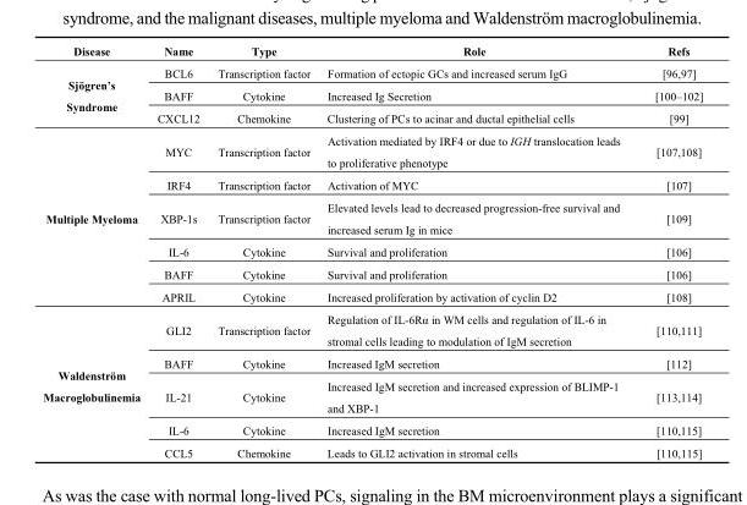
<table><thead><tr><td>Disease</td><td>Name</td><td>Type</td><td>Role</td><td>Refs</td></tr></thead><tbody><tr><td rowspan="3">Sjӧgren’s Syndrome</td><td>BCL6</td><td>Transcription factor</td><td>Formation of ectopic GCs and increased serum IgG</td><td>[96,97]</td></tr><tr><td>BAFF</td><td>Cytokine</td><td>Increased Ig Secretion</td><td>[100–102]</td></tr><tr><td>CXCL12</td><td>Chemokine</td><td>Clustering of PCs to acinar and ductal epithelial cells</td><td>[99]</td></tr><tr><td rowspan="6">Multiple Myeloma</td><td>MYC</td><td>Transcription factor</td><td>Activation mediated by IRF4 or due to IGH translocation leads to proliferative phenotype</td><td>[107,108]</td></tr><tr><td>IRF4</td><td>Transcription factor</td><td>Activation of MYC</td><td>[107]</td></tr><tr><td>XBP-1s</td><td>Transcription factor</td><td>Elevated levels lead to decreased progression-free survival and increased serum Ig in mice</td><td>[109]</td></tr><tr><td>IL-6</td><td>Cytokine</td><td>Survival and proliferation</td><td>[106]</td></tr><tr><td>BAFF</td><td>Cytokine</td><td>Survival and proliferation</td><td>[106]</td></tr><tr><td>APRIL</td><td>Cytokine</td><td>Increased proliferation by activation of cyclin D2</td><td>[108]</td></tr><tr><td rowspan="5">Waldenstrӧm Macroglobulinemia</td><td>GLI2</td><td>Transcription factor</td><td>Regulation of IL-6Rα in WM cells and regulation of IL-6 in stromal cells leading to modulation of IgM secretion</td><td>[110,111]</td></tr><tr><td>BAFF</td><td>Cytokine</td><td>Increased IgM secretion</td><td>[112]</td></tr><tr><td>IL-21</td><td>Cytokine</td><td>Increased IgM secretion and increased expression of BLIMP-1 and XBP-1</td><td>[113,114]</td></tr><tr><td>IL-6</td><td>Cytokine</td><td>Increased IgM secretion</td><td>[110,115]</td></tr><tr><td>CCL5</td><td>Chemokine</td><td>Leads to GLI2 activation in stromal cells</td><td>[110,115]</td></tr></tbody></table>